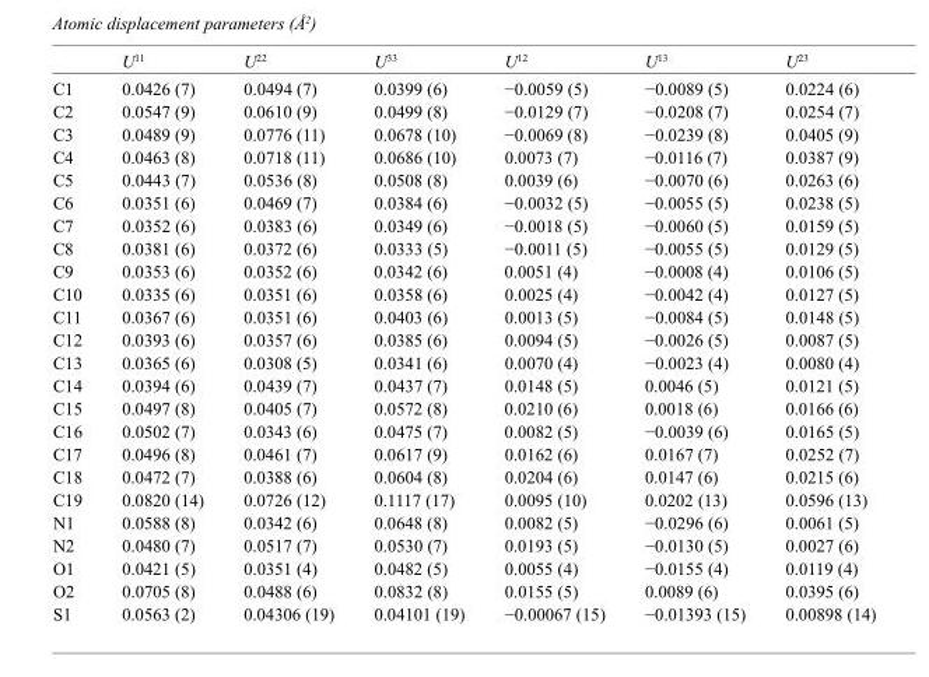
<table><thead><tr><td></td><td>U<sup>11</sup></td><td>U<sup>22</sup></td><td>U<sup>33</sup></td><td>U<sup>12</sup></td><td>U<sup>13</sup></td><td>U<sup>23</sup></td></tr></thead><tbody><tr><td>C1</td><td>0.0426 (7)</td><td>0.0494 (7)</td><td>0.0399 (6)</td><td>−0.0059 (5)</td><td>−0.0089 (5)</td><td>0.0224 (6)</td></tr><tr><td>C2</td><td>0.0547 (9)</td><td>0.0610 (9)</td><td>0.0499 (8)</td><td>−0.0129 (7)</td><td>−0.0208 (7)</td><td>0.0254 (7)</td></tr><tr><td>C3</td><td>0.0489 (9)</td><td>0.0776 (11)</td><td>0.0678 (10)</td><td>−0.0069 (8)</td><td>−0.0239 (8)</td><td>0.0405 (9)</td></tr><tr><td>C4</td><td>0.0463 (8)</td><td>0.0718 (11)</td><td>0.0686 (10)</td><td>0.0073 (7)</td><td>−0.0116 (7)</td><td>0.0387 (9)</td></tr><tr><td>C5</td><td>0.0443 (7)</td><td>0.0536 (8)</td><td>0.0508 (8)</td><td>0.0039 (6)</td><td>−0.0070 (6)</td><td>0.0263 (6)</td></tr><tr><td>C6</td><td>0.0351 (6)</td><td>0.0469 (7)</td><td>0.0384 (6)</td><td>−0.0032 (5)</td><td>−0.0055 (5)</td><td>0.0238 (5)</td></tr><tr><td>C7</td><td>0.0352 (6)</td><td>0.0383 (6)</td><td>0.0349 (6)</td><td>−0.0018 (5)</td><td>−0.0060 (5)</td><td>0.0159 (5)</td></tr><tr><td>C8</td><td>0.0381 (6)</td><td>0.0372 (6)</td><td>0.0333 (5)</td><td>−0.0011 (5)</td><td>−0.0055 (5)</td><td>0.0129 (5)</td></tr><tr><td>C9</td><td>0.0353 (6)</td><td>0.0352 (6)</td><td>0.0342 (6)</td><td>0.0051 (4)</td><td>−0.0008 (4)</td><td>0.0106 (5)</td></tr><tr><td>C10</td><td>0.0335 (6)</td><td>0.0351 (6)</td><td>0.0358 (6)</td><td>0.0025 (4)</td><td>−0.0042 (4)</td><td>0.0127 (5)</td></tr><tr><td>C11</td><td>0.0367 (6)</td><td>0.0351 (6)</td><td>0.0403 (6)</td><td>0.0013 (5)</td><td>−0.0084 (5)</td><td>0.0148 (5)</td></tr><tr><td>C12</td><td>0.0393 (6)</td><td>0.0357 (6)</td><td>0.0385 (6)</td><td>0.0094 (5)</td><td>−0.0026 (5)</td><td>0.0087 (5)</td></tr><tr><td>C13</td><td>0.0365 (6)</td><td>0.0308 (5)</td><td>0.0341 (6)</td><td>0.0070 (4)</td><td>−0.0023 (4)</td><td>0.0080 (4)</td></tr><tr><td>C14</td><td>0.0394 (6)</td><td>0.0439 (7)</td><td>0.0437 (7)</td><td>0.0148 (5)</td><td>0.0046 (5)</td><td>0.0121 (5)</td></tr><tr><td>C15</td><td>0.0497 (8)</td><td>0.0405 (7)</td><td>0.0572 (8)</td><td>0.0210 (6)</td><td>0.0018 (6)</td><td>0.0166 (6)</td></tr><tr><td>C16</td><td>0.0502 (7)</td><td>0.0343 (6)</td><td>0.0475 (7)</td><td>0.0082 (5)</td><td>−0.0039 (6)</td><td>0.0165 (5)</td></tr><tr><td>C17</td><td>0.0496 (8)</td><td>0.0461 (7)</td><td>0.0617 (9)</td><td>0.0162 (6)</td><td>0.0167 (7)</td><td>0.0252 (7)</td></tr><tr><td>C18</td><td>0.0472 (7)</td><td>0.0388 (6)</td><td>0.0604 (8)</td><td>0.0204 (6)</td><td>0.0147 (6)</td><td>0.0215 (6)</td></tr><tr><td>C19</td><td>0.0820 (14)</td><td>0.0726 (12)</td><td>0.1117 (17)</td><td>0.0095 (10)</td><td>0.0202 (13)</td><td>0.0596 (13)</td></tr><tr><td>N1</td><td>0.0588 (8)</td><td>0.0342 (6)</td><td>0.0648 (8)</td><td>0.0082 (5)</td><td>−0.0296 (6)</td><td>0.0061 (5)</td></tr><tr><td>N2</td><td>0.0480 (7)</td><td>0.0517 (7)</td><td>0.0530 (7)</td><td>0.0193 (5)</td><td>−0.0130 (5)</td><td>0.0027 (6)</td></tr><tr><td>O1</td><td>0.0421 (5)</td><td>0.0351 (4)</td><td>0.0482 (5)</td><td>0.0055 (4)</td><td>−0.0155 (4)</td><td>0.0119 (4)</td></tr><tr><td>O2</td><td>0.0705 (8)</td><td>0.0488 (6)</td><td>0.0832 (8)</td><td>0.0155 (5)</td><td>0.0089 (6)</td><td>0.0395 (6)</td></tr><tr><td>S1</td><td>0.0563 (2)</td><td>0.04306 (19)</td><td>0.04101 (19)</td><td>−0.00067 (15)</td><td>−0.01393 (15)</td><td>0.00898 (14)</td></tr></tbody></table>